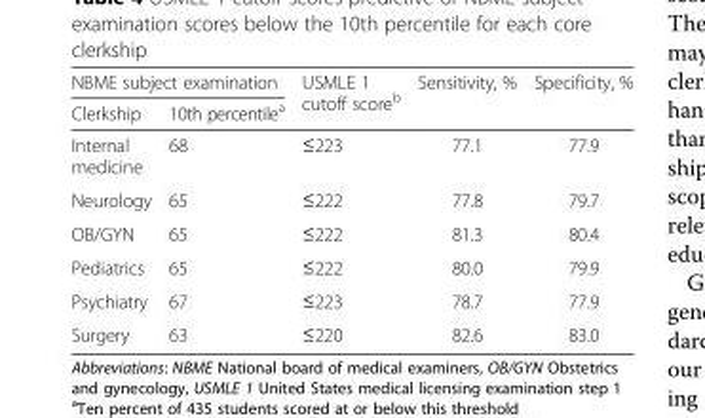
<table><thead><tr><td colspan="2">NBME subject examination</td><td rowspan="2">USMLE 1 cutoff score<sup>b</sup></td><td rowspan="2">Sensitivity, %</td><td rowspan="2">Specificity, %</td></tr><tr><td>Clerkship</td><td>10th percentile<sup>a</sup></td></tr></thead><tbody><tr><td>Internal medicine</td><td>68</td><td>≤223</td><td>77.1</td><td>77.9</td></tr><tr><td>Neurology</td><td>65</td><td>≤222</td><td>77.8</td><td>79.7</td></tr><tr><td>OB/GYN</td><td>65</td><td>≤222</td><td>81.3</td><td>80.4</td></tr><tr><td>Pediatrics</td><td>65</td><td>≤222</td><td>80.0</td><td>79.9</td></tr><tr><td>Psychiatry</td><td>67</td><td>≤223</td><td>78.7</td><td>77.9</td></tr><tr><td>Surgery</td><td>63</td><td>≤220</td><td>82.6</td><td>83.0</td></tr></tbody></table>